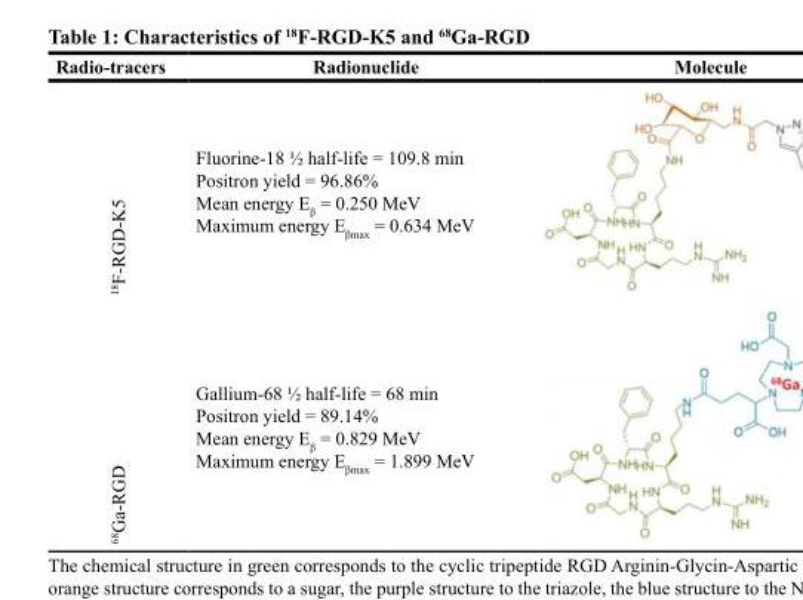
<table><thead><tr><td>Radio-tracers</td><td>Radionuclide</td><td>Molecule</td></tr></thead><tbody><tr><td><sup>18</sup>F-RGD-K5</td><td>Fluorine-18 ½ half-life = 109.8 min Positron yield = 96.86% Mean energy E<sub>β</sub> = 0.250 MeV Maximum energy E<sub>βmax</sub> = 0.634 MeV</td><td></td></tr><tr><td><sup>68</sup>Ga-RGD</td><td>Gallium-68 ½ half-life = 68 min Positron yield = 89.14% Mean energy E<sub>β</sub> = 0.829 MeV Maximum energy E<sub>βmax</sub> = 1.899 MeV</td><td></td></tr></tbody></table>